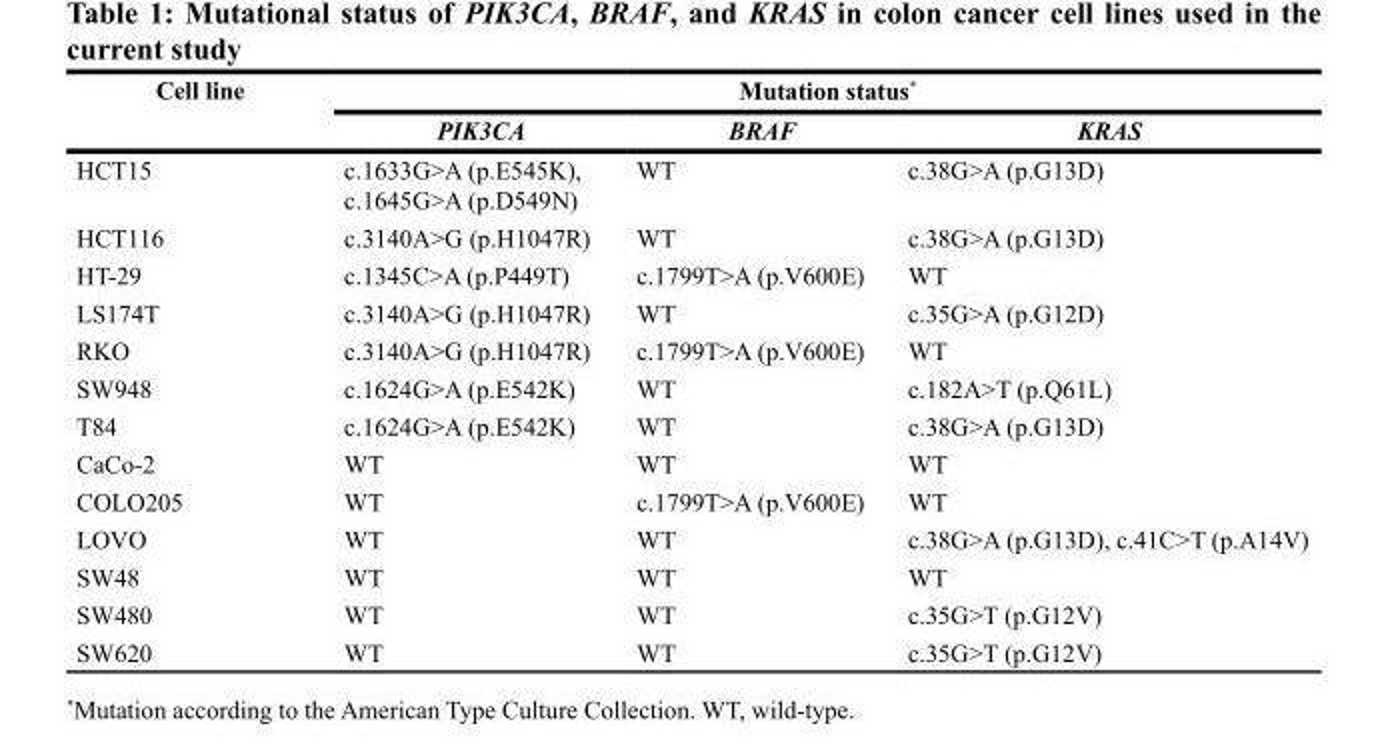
<table><thead><tr><td rowspan="2">Cell line</td><td colspan="3">Mutation status*</td></tr><tr><td>PIK3CA</td><td>BRAF</td><td>KRAS</td></tr></thead><tbody><tr><td>HCT15</td><td>c.1633G&gt;A (p.E545K), c.1645G&gt;A (p.D549N)</td><td>WT</td><td>c.38G&gt;A (p.G13D)</td></tr><tr><td>HCT116</td><td>c.3140A&gt;G (p.H1047R)</td><td>WT</td><td>c.38G&gt;A (p.G13D)</td></tr><tr><td>HT-29</td><td>c.1345C&gt;A (p.P449T)</td><td>c.1799T&gt;A (p.V600E)</td><td>WT</td></tr><tr><td>LS174T</td><td>c.3140A&gt;G (p.H1047R)</td><td>WT</td><td>c.35G&gt;A (p.G12D)</td></tr><tr><td>RKO</td><td>c.3140A&gt;G (p.H1047R)</td><td>c.1799T&gt;A (p.V600E)</td><td>WT</td></tr><tr><td>SW948</td><td>c.1624G&gt;A (p.E542K)</td><td>WT</td><td>c.182A&gt;T (p.Q61L)</td></tr><tr><td>T84</td><td>c.1624G&gt;A (p.E542K)</td><td>WT</td><td>c.38G&gt;A (p.G13D)</td></tr><tr><td>CaCo-2</td><td>WT</td><td>WT</td><td>WT</td></tr><tr><td>COLO205</td><td>WT</td><td>c.1799T&gt;A (p.V600E)</td><td>WT</td></tr><tr><td>LOVO</td><td>WT</td><td>WT</td><td>c.38G&gt;A (p.G13D), c.41C&gt;T (p.A14V)</td></tr><tr><td>SW48</td><td>WT</td><td>WT</td><td>WT</td></tr><tr><td>SW480</td><td>WT</td><td>WT</td><td>c.35G&gt;T (p.G12V)</td></tr><tr><td>SW620</td><td>WT</td><td>WT</td><td>c.35G&gt;T (p.G12V)</td></tr></tbody></table>